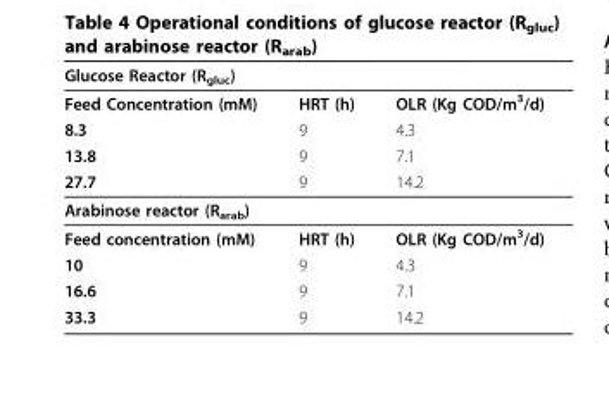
<table><thead><tr><td colspan="3">Glucose Reactor (R<sub>gluc</sub>)</td></tr><tr><td>Feed Concentration (mM)</td><td>HRT (h)</td><td>OLR (Kg COD/m<sup>3</sup>/d)</td></tr></thead><tbody><tr><td>8.3</td><td>9</td><td>4.3</td></tr><tr><td>13.8</td><td>9</td><td>7.1</td></tr><tr><td>27.7</td><td>9</td><td>14.2</td></tr><tr><td colspan="3">Arabinose reactor (R<sub>arab</sub>)</td></tr><tr><td>Feed concentration (mM)</td><td>HRT (h)</td><td>OLR (Kg COD/m<sup>3</sup>/d)</td></tr><tr><td>10</td><td>9</td><td>4.3</td></tr><tr><td>16.6</td><td>9</td><td>7.1</td></tr><tr><td>33.3</td><td>9</td><td>14.2</td></tr></tbody></table>